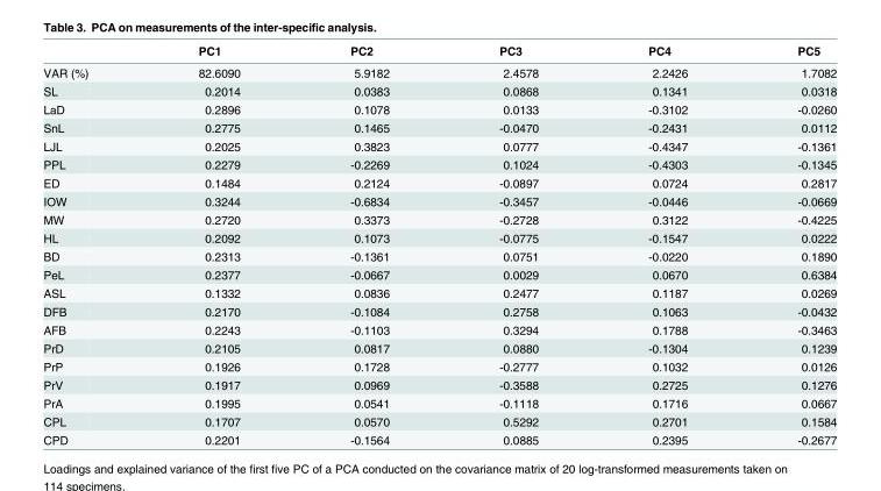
<table><thead><tr><td></td><td>PC1</td><td>PC2</td><td>PC3</td><td>PC4</td><td>PC5</td></tr></thead><tbody><tr><td>VAR (%)</td><td>82.6090</td><td>5.9182</td><td>2.4578</td><td>2.2426</td><td>1.7082</td></tr><tr><td>SL</td><td>0.2014</td><td>0.0383</td><td>0.0868</td><td>0.1341</td><td>0.0318</td></tr><tr><td>LaD</td><td>0.2896</td><td>0.1078</td><td>0.0133</td><td>-0.3102</td><td>-0.0260</td></tr><tr><td>SnL</td><td>0.2775</td><td>0.1465</td><td>-0.0470</td><td>-0.2431</td><td>0.0112</td></tr><tr><td>LJL</td><td>0.2025</td><td>0.3823</td><td>0.0777</td><td>-0.4347</td><td>-0.1361</td></tr><tr><td>PPL</td><td>0.2279</td><td>-0.2269</td><td>0.1024</td><td>-0.4303</td><td>-0.1345</td></tr><tr><td>ED</td><td>0.1484</td><td>0.2124</td><td>-0.0897</td><td>0.0724</td><td>0.2817</td></tr><tr><td>IOW</td><td>0.3244</td><td>-0.6834</td><td>-0.3457</td><td>-0.0446</td><td>-0.0669</td></tr><tr><td>MW</td><td>0.2720</td><td>0.3373</td><td>-0.2728</td><td>0.3122</td><td>-0.4225</td></tr><tr><td>HL</td><td>0.2092</td><td>0.1073</td><td>-0.0775</td><td>-0.1547</td><td>0.0222</td></tr><tr><td>BD</td><td>0.2313</td><td>-0.1361</td><td>0.0751</td><td>-0.0220</td><td>0.1890</td></tr><tr><td>PeL</td><td>0.2377</td><td>-0.0667</td><td>0.0029</td><td>0.0670</td><td>0.6384</td></tr><tr><td>ASL</td><td>0.1332</td><td>0.0836</td><td>0.2477</td><td>0.1187</td><td>0.0269</td></tr><tr><td>DFB</td><td>0.2170</td><td>-0.1084</td><td>0.2758</td><td>0.1063</td><td>-0.0432</td></tr><tr><td>AFB</td><td>0.2243</td><td>-0.1103</td><td>0.3294</td><td>0.1788</td><td>-0.3463</td></tr><tr><td>PrD</td><td>0.2105</td><td>0.0817</td><td>0.0880</td><td>-0.1304</td><td>0.1239</td></tr><tr><td>PrP</td><td>0.1926</td><td>0.1728</td><td>-0.2777</td><td>0.1032</td><td>0.0126</td></tr><tr><td>PrV</td><td>0.1917</td><td>0.0969</td><td>-0.3588</td><td>0.2725</td><td>0.1276</td></tr><tr><td>PrA</td><td>0.1995</td><td>0.0541</td><td>-0.1118</td><td>0.1716</td><td>0.0667</td></tr><tr><td>CPL</td><td>0.1707</td><td>0.0570</td><td>0.5292</td><td>0.2701</td><td>0.1584</td></tr><tr><td>CPD</td><td>0.2201</td><td>-0.1564</td><td>0.0885</td><td>0.2395</td><td>-0.2677</td></tr></tbody></table>